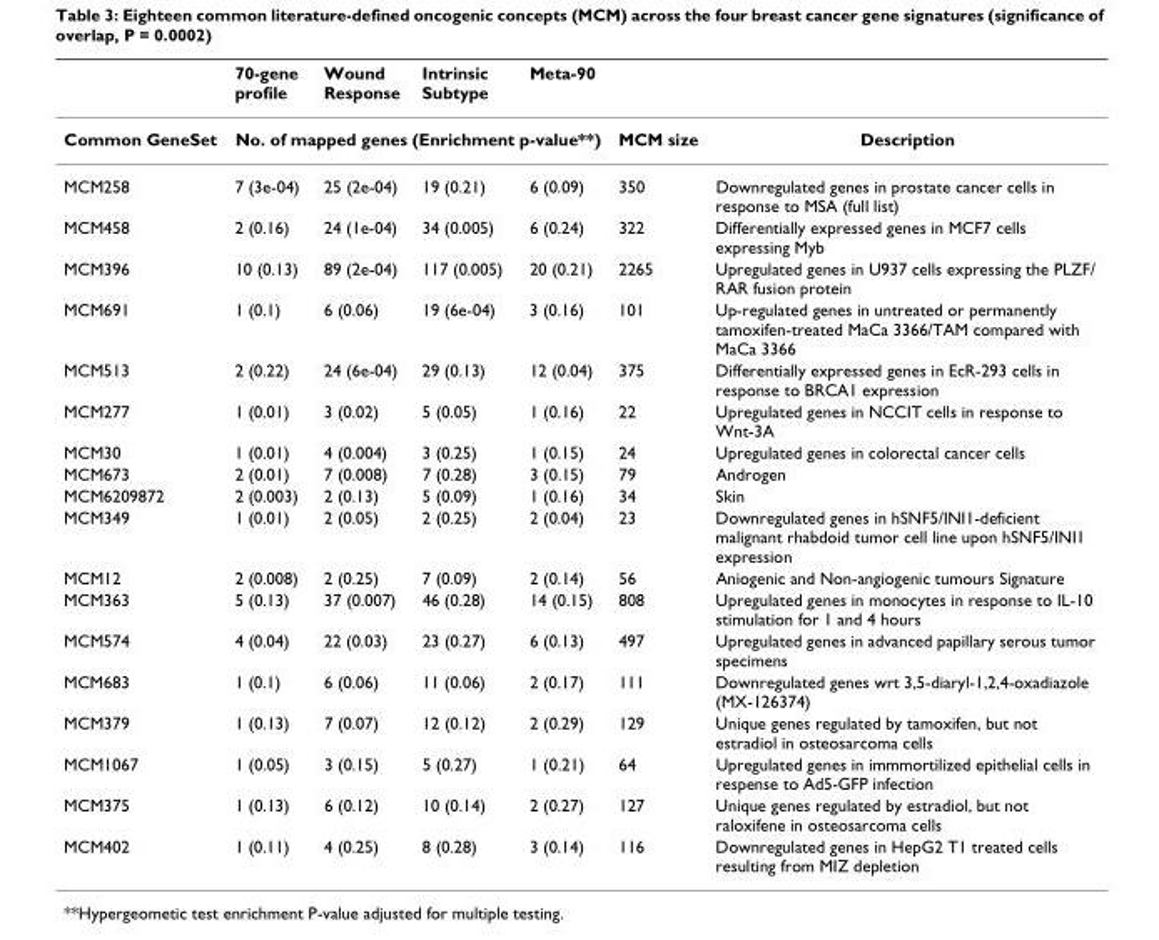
<table><thead><tr><td></td><td>70-gene profile</td><td>Wound Response</td><td>Intrinsic Subtype</td><td>Meta-90</td><td></td><td></td></tr></thead><tbody><tr><td>Common GeneSet</td><td colspan="4">No. of mapped genes (Enrichment p-value**)</td><td>MCM size</td><td>Description</td></tr><tr><td>MCM258</td><td>7 (3e-04)</td><td>25 (2e-04)</td><td>19 (0.21)</td><td>6 (0.09)</td><td>350</td><td>Downregulated genes in prostate cancer cells in response to MSA (full list)</td></tr><tr><td>MCM458</td><td>2 (0.16)</td><td>24 (1e-04)</td><td>34 (0.005)</td><td>6 (0.24)</td><td>322</td><td>Differentially expressed genes in MCF7 cells expressing Myb</td></tr><tr><td>MCM396</td><td>10 (0.13)</td><td>89 (2e-04)</td><td>117 (0.005)</td><td>20 (0.21)</td><td>2265</td><td>Upregulated genes in U937 cells expressing the PLZF/ RAR fusion protein</td></tr><tr><td>MCM691</td><td>1 (0.1)</td><td>6 (0.06)</td><td>19 (6e-04)</td><td>3 (0.16)</td><td>101</td><td>Up-regulated genes in untreated or permanently tamoxifen-treated MaCa 3366/TAM compared with MaCa 3366</td></tr><tr><td>MCM513</td><td>2 (0.22)</td><td>24 (6e-04)</td><td>29 (0.13)</td><td>12 (0.04)</td><td>375</td><td>Differentially expressed genes in EcR-293 cells in response to BRCA1 expression</td></tr><tr><td>MCM277</td><td>1 (0.01)</td><td>3 (0.02)</td><td>5 (0.05)</td><td>1 (0.16)</td><td>22</td><td>Upregulated genes in NCCIT cells in response to Wnt-3A</td></tr><tr><td>MCM30</td><td>1 (0.01)</td><td>4 (0.004)</td><td>3 (0.25)</td><td>1 (0.15)</td><td>24</td><td>Upregulated genes in colorectal cancer cells</td></tr><tr><td>MCM673</td><td>2 (0.01)</td><td>7 (0.008)</td><td>7 (0.28)</td><td>3 (0.15)</td><td>79</td><td>Androgen</td></tr><tr><td>MCM6209872</td><td>2 (0.003)</td><td>2 (0.13)</td><td>5 (0.09)</td><td>1 (0.16)</td><td>34</td><td>Skin</td></tr><tr><td>MCM349</td><td>1 (0.01)</td><td>2 (0.05)</td><td>2 (0.25)</td><td>2 (0.04)</td><td>23</td><td>Downregulated genes in hSNF5/INI1-deficient malignant rhabdoid tumor cell line upon hSNF5/INI1 expression</td></tr><tr><td>MCM12</td><td>2 (0.008)</td><td>2 (0.25)</td><td>7 (0.09)</td><td>2 (0.14)</td><td>56</td><td>Aniogenic and Non-angiogenic tumours Signature</td></tr><tr><td>MCM363</td><td>5 (0.13)</td><td>37 (0.007)</td><td>46 (0.28)</td><td>14 (0.15)</td><td>808</td><td>Upregulated genes in monocytes in response to IL-10 stimulation for 1 and 4 hours</td></tr><tr><td>MCM574</td><td>4 (0.04)</td><td>22 (0.03)</td><td>23 (0.27)</td><td>6 (0.13)</td><td>497</td><td>Upregulated genes in advanced papillary serous tumor specimens</td></tr><tr><td>MCM683</td><td>1 (0.1)</td><td>6 (0.06)</td><td>11 (0.06)</td><td>2 (0.17)</td><td>111</td><td>Downregulated genes wrt 3,5-diaryl-1,2,4-oxadiazole (MX-126374)</td></tr><tr><td>MCM379</td><td>1 (0.13)</td><td>7 (0.07)</td><td>12 (0.12)</td><td>2 (0.29)</td><td>129</td><td>Unique genes regulated by tamoxifen, but not estradiol in osteosarcoma cells</td></tr><tr><td>MCM1067</td><td>1 (0.05)</td><td>3 (0.15)</td><td>5 (0.27)</td><td>1 (0.21)</td><td>64</td><td>Upregulated genes in immmortilized epithelial cells in respense to Ad5-GFP infection</td></tr><tr><td>MCM375</td><td>1 (0.13)</td><td>6 (0.12)</td><td>10 (0.14)</td><td>2 (0.27)</td><td>127</td><td>Unique genes regulated by estradiol, but not raloxifene in osteosarcoma cells</td></tr><tr><td>MCM402</td><td>1 (0.11)</td><td>4 (0.25)</td><td>8 (0.28)</td><td>3 (0.14)</td><td>116</td><td>Downregulated genes in HepG2 T1 treated cells resulting from MIZ depletion</td></tr></tbody></table>